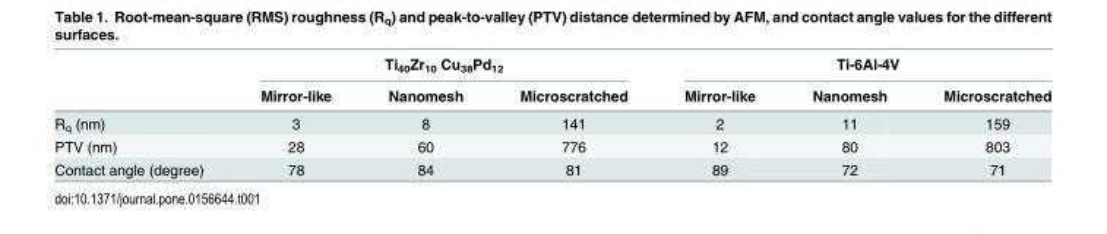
<table><thead><tr><td rowspan="2"></td><td colspan="3">Ti<sub>40</sub>Zr<sub>10</sub> Cu<sub>38</sub>Pd<sub>12</sub></td><td colspan="3">Ti-6Al-4V</td></tr><tr><td>Mirror-like</td><td>Nanomesh</td><td>Microscratched</td><td>Mirror-like</td><td>Nanomesh</td><td>Microscratched</td></tr></thead><tbody><tr><td>R<sub>q</sub> (nm)</td><td>3</td><td>8</td><td>141</td><td>2</td><td>11</td><td>159</td></tr><tr><td>PTV (nm)</td><td>28</td><td>60</td><td>776</td><td>12</td><td>80</td><td>803</td></tr><tr><td>Contact angle (degree)</td><td>78</td><td>84</td><td>81</td><td>89</td><td>72</td><td>71</td></tr></tbody></table>